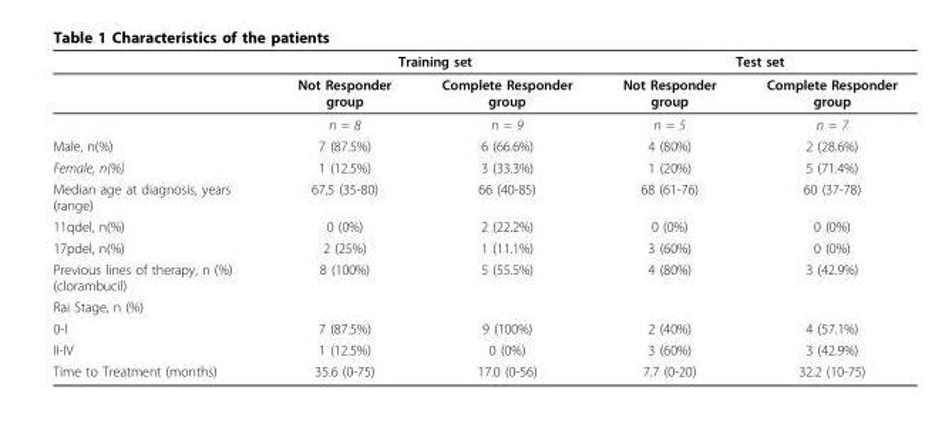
<table><thead><tr><td rowspan="2"></td><td colspan="2">Training set</td><td colspan="2">Test set</td></tr><tr><td>Not Responder group</td><td>Complete Responder group</td><td>Not Responder group</td><td>Complete Responder group</td></tr></thead><tbody><tr><td></td><td>n = 8</td><td>n = 9</td><td>n = 5</td><td>n = 7</td></tr><tr><td>Male, n(%)</td><td>7 (87.5%)</td><td>6 (66.6%)</td><td>4 (80%)</td><td>2 (28.6%)</td></tr><tr><td>Female, n(%)</td><td>1 (12.5%)</td><td>3 (33.3%)</td><td>1 (20%)</td><td>5 (71.4%)</td></tr><tr><td>Median age at diagnosis, years (range)</td><td>67,5 (35-80)</td><td>66 (40-85)</td><td>68 (61-76)</td><td>60 (37-78)</td></tr><tr><td>11qdel, n(%)</td><td>0 (0%)</td><td>2 (22.2%)</td><td>0 (0%)</td><td>0 (0%)</td></tr><tr><td>17pdel, n(%)</td><td>2 (25%)</td><td>1 (11.1%)</td><td>3 (60%)</td><td>0 (0%)</td></tr><tr><td>Previous lines of therapy, n (%) (clorambucil)</td><td>8 (100%)</td><td>5 (55.5%)</td><td>4 (80%)</td><td>3 (42.9%)</td></tr><tr><td colspan="5">Rai Stage, n (%)</td></tr><tr><td>0-I</td><td>7 (87.5%)</td><td>9 (100%)</td><td>2 (40%)</td><td>4 (57.1%)</td></tr><tr><td>II-IV</td><td>1 (12.5%)</td><td>0 (0%)</td><td>3 (60%)</td><td>3 (42.9%)</td></tr><tr><td>Time to Treatment (months)</td><td>35.6 (0-75)</td><td>17.0 (0-56)</td><td>7.7 (0-20)</td><td>32.2 (10-75)</td></tr></tbody></table>